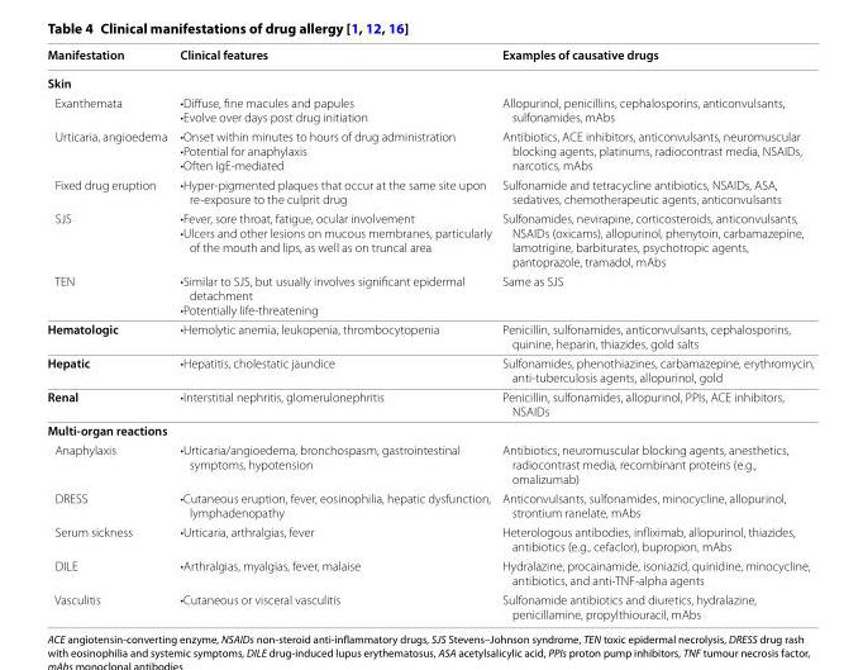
<table><thead><tr><td>Manifestation</td><td>Clinical features</td><td>Examples of causative drugs</td></tr></thead><tbody><tr><td colspan="3">Skin</td></tr><tr><td>Exanthemata</td><td>•Diffuse, fine macules and papules •Evolve over days post drug initiation</td><td>Allopurinol, penicillins, cephalosporins, anticonvulsants, sulfonamides, mAbs</td></tr><tr><td>Urticaria, angioedema</td><td>•Onset within minutes to hours of drug administration •Potential for anaphylaxis •Often IgE‑mediated</td><td>Antibiotics, ACE inhibitors, anticonvulsants, neuromuscular blocking agents, platinums, radiocontrast media, NSAIDs, narcotics, mAbs</td></tr><tr><td>Fixed drug eruption</td><td>•Hyper‑pigmented plaques that occur at the same site upon re‑exposure to the culprit drug</td><td>Sulfonamide and tetracycline antibiotics, NSAIDs, ASA, sedatives, chemotherapeutic agents, anticonvulsants</td></tr><tr><td>SJS</td><td>•Fever, sore throat, fatigue, ocular involvement •Ulcers and other lesions on mucous membranes, particularly of the mouth and lips, as well as on truncal area</td><td>Sulfonamides, nevirapine, corticosteroids, anticonvulsants, NSAIDs (oxicams), allopurinol, phenytoin, carbamazepine, lamotrigine, barbiturates, psychotropic agents, pantoprazole, tramadol, mAbs</td></tr><tr><td>TEN</td><td>•Similar to SJS, but usually involves significant epidermal detachment •Potentially life‑threatening</td><td>Same as SJS</td></tr><tr><td>Hematologic</td><td>•Hemolytic anemia, leukopenia, thrombocytopenia</td><td>Penicillin, sulfonamides, anticonvulsants, cephalosporins, quinine, heparin, thiazides, gold salts</td></tr><tr><td>Hepatic</td><td>•Hepatitis, cholestatic jaundice</td><td>Sulfonamides, phenothiazines, carbamazepine, erythromycin, anti‑tuberculosis agents, allopurinol, gold</td></tr><tr><td>Renal</td><td>•Interstitial nephritis, glomerulonephritis</td><td>Penicillin, sulfonamides, allopurinol, PPIs, ACE inhibitors, NSAIDs</td></tr><tr><td colspan="3">Multi-organ reactions</td></tr><tr><td>Anaphylaxis</td><td>•Urticaria/angioedema, bronchospasm, gastrointestinal symptoms, hypotension</td><td>Antibiotics, neuromuscular blocking agents, anesthetics, radiocontrast media, recombinant proteins (e.g., omalizumab)</td></tr><tr><td>DRESS</td><td>•Cutaneous eruption, fever, eosinophilia, hepatic dysfunction, lymphadenopathy</td><td>Anticonvulsants, sulfonamides, minocycline, allopurinol, strontium ranelate, mAbs</td></tr><tr><td>Serum sickness</td><td>•Urticaria, arthralgias, fever</td><td>Heterologous antibodies, infliximab, allopurinol, thiazides, antibiotics (e.g., cefaclor), bupropion, mAbs</td></tr><tr><td>DILE</td><td>•Arthralgias, myalgias, fever, malaise</td><td>Hydralazine, procainamide, isoniazid, quinidine, minocycline, antibiotics, and anti‑TNF‑alpha agents</td></tr><tr><td>Vasculitis</td><td>•Cutaneous or visceral vasculitis</td><td>Sulfonamide antibiotics and diuretics, hydralazine, penicillamine, propylthiouracil, mAbs</td></tr></tbody></table>